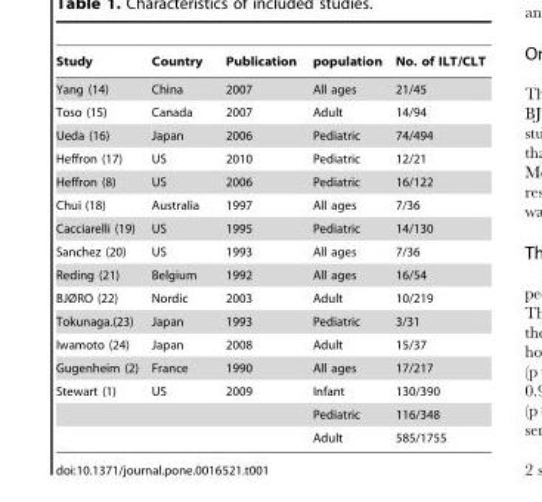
<table><thead><tr><td>Study</td><td>Country</td><td>Publication</td><td>population</td><td>No. of ILT/CLT</td></tr></thead><tbody><tr><td>Yang (14)</td><td>China</td><td>2007</td><td>All ages</td><td>21/45</td></tr><tr><td>Toso (15)</td><td>Canada</td><td>2007</td><td>Adult</td><td>14/94</td></tr><tr><td>Ueda (16)</td><td>Japan</td><td>2006</td><td>Pediatric</td><td>74/494</td></tr><tr><td>Heffron (17)</td><td>US</td><td>2010</td><td>Pediatric</td><td>12/21</td></tr><tr><td>Heffron (8)</td><td>US</td><td>2006</td><td>Pediatric</td><td>16/122</td></tr><tr><td>Chui (18)</td><td>Australia</td><td>1997</td><td>All ages</td><td>7/36</td></tr><tr><td>Cacciarelli (19)</td><td>US</td><td>1995</td><td>Pediatric</td><td>14/130</td></tr><tr><td>Sanchez (20)</td><td>US</td><td>1993</td><td>All ages</td><td>7/36</td></tr><tr><td>Reding (21)</td><td>Belgium</td><td>1992</td><td>All ages</td><td>16/54</td></tr><tr><td>BJØRO (22)</td><td>Nordic</td><td>2003</td><td>Adult</td><td>10/219</td></tr><tr><td>Tokunaga.(23)</td><td>Japan</td><td>1993</td><td>Pediatric</td><td>3/31</td></tr><tr><td>Iwamoto (24)</td><td>Japan</td><td>2008</td><td>Adult</td><td>15/37</td></tr><tr><td>Gugenheim (2)</td><td>France</td><td>1990</td><td>All ages</td><td>17/217</td></tr><tr><td rowspan="3">Stewart (1)</td><td>US</td><td>2009</td><td>Infant</td><td>130/390</td></tr><tr><td></td><td></td><td>Pediatric</td><td>116/348</td></tr><tr><td></td><td></td><td>Adult</td><td>585/1755</td></tr></tbody></table>